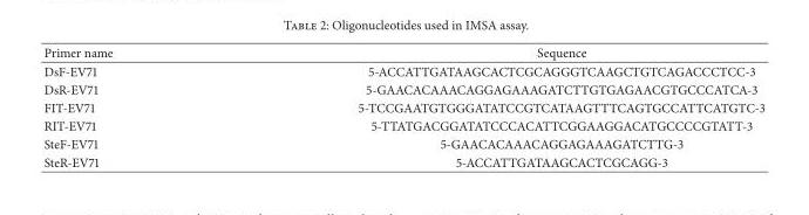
<table><thead><tr><td>Primer name</td><td>Sequence</td></tr></thead><tbody><tr><td>DsF-EV71</td><td>5-ACCATTGATAAGCACTCGCAGGGTCAAGCTGTCAGACCCTCC-3</td></tr><tr><td>DsR-EV71</td><td>5-GAACACAAACAGGAGAAAGATCTTGTGAGAACGTGCCCATCA-3</td></tr><tr><td>FIT-EV71</td><td>5-TCCGAATGTGGGATATCCGTCATAAGTTTCAGTGCCATTCATGTC-3</td></tr><tr><td>RIT-EV71</td><td>5-TTATGACGGATATCCCACATTCGGAAGGACATGCCCCGTATT-3</td></tr><tr><td>SteF-EV71</td><td>5-GAACACAAACAGGAGAAAGATCTTG-3</td></tr><tr><td>SteR-EV71</td><td>5-ACCATTGATAAGCACTCGCAGG-3</td></tr></tbody></table>